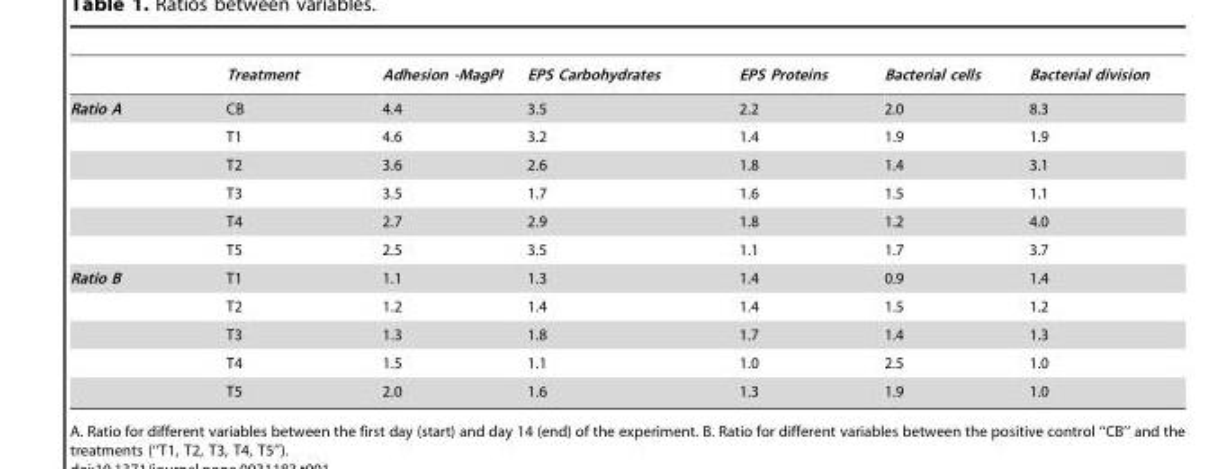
<table><thead><tr><td></td><td>Treatment</td><td>Adhesion -MagPI</td><td>EPS Carbohydrates</td><td>EPS Proteins</td><td>Bacterial cells</td><td>Bacterial division</td></tr></thead><tbody><tr><td rowspan="6">Ratio A</td><td>CB</td><td>4.4</td><td>3.5</td><td>2.2</td><td>2.0</td><td>8.3</td></tr><tr><td>T1</td><td>4.6</td><td>3.2</td><td>1.4</td><td>1.9</td><td>1.9</td></tr><tr><td>T2</td><td>3.6</td><td>2.6</td><td>1.8</td><td>1.4</td><td>3.1</td></tr><tr><td>T3</td><td>3.5</td><td>1.7</td><td>1.6</td><td>1.5</td><td>1.1</td></tr><tr><td>T4</td><td>2.7</td><td>2.9</td><td>1.8</td><td>1.2</td><td>4.0</td></tr><tr><td>T5</td><td>2.5</td><td>3.5</td><td>1.1</td><td>1.7</td><td>3.7</td></tr><tr><td rowspan="5">Ratio B</td><td>T1</td><td>1.1</td><td>1.3</td><td>1.4</td><td>0.9</td><td>1.4</td></tr><tr><td>T2</td><td>1.2</td><td>1.4</td><td>1.4</td><td>1.5</td><td>1.2</td></tr><tr><td>T3</td><td>1.3</td><td>1.8</td><td>1.7</td><td>1.4</td><td>1.3</td></tr><tr><td>T4</td><td>1.5</td><td>1.1</td><td>1.0</td><td>2.5</td><td>1.0</td></tr><tr><td>T5</td><td>2.0</td><td>1.6</td><td>1.3</td><td>1.9</td><td>1.0</td></tr></tbody></table>